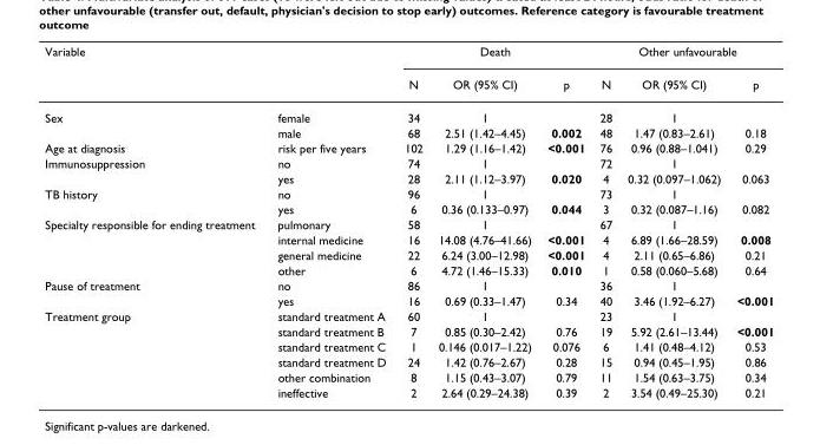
<table><thead><tr><td colspan="2">Variable</td><td colspan="3">Death</td><td colspan="3">Other unfavourable</td></tr><tr><td></td><td></td><td>N</td><td>OR (95% CI)</td><td>p</td><td>N</td><td>OR (95% CI)</td><td>p</td></tr></thead><tbody><tr><td rowspan="2">Sex</td><td>female</td><td>34</td><td>1</td><td></td><td>28</td><td>1</td><td></td></tr><tr><td>male</td><td>68</td><td>2.51 (1.42–4.45)</td><td>0.002</td><td>48</td><td>1.47 (0.83–2.61)</td><td>0.18</td></tr><tr><td>Age at diagnosis</td><td>risk per five years</td><td>102</td><td>1.29 (1.16–1.42)</td><td>&lt;0.001</td><td>76</td><td>0.96 (0.88–1.041)</td><td>0.29</td></tr><tr><td rowspan="2">Immunosuppression</td><td>no</td><td>74</td><td>1</td><td></td><td>72</td><td>1</td><td></td></tr><tr><td>yes</td><td>28</td><td>2.11 (1.12–3.97)</td><td>0.020</td><td>4</td><td>0.32 (0.097–1.062)</td><td>0.063</td></tr><tr><td rowspan="2">TB history</td><td>no</td><td>96</td><td>1</td><td></td><td>73</td><td>1</td><td></td></tr><tr><td>yes</td><td>6</td><td>0.36 (0.133–0.97)</td><td>0.044</td><td>3</td><td>0.32 (0.087–1.16)</td><td>0.082</td></tr><tr><td rowspan="4">Specialty responsible for ending treatment</td><td>pulmonary</td><td>58</td><td>1</td><td></td><td>67</td><td>1</td><td></td></tr><tr><td>internal medicine</td><td>16</td><td>14.08 (4.76–41.66)</td><td>&lt;0.001</td><td>4</td><td>6.89 (1.66–28.59)</td><td>0.008</td></tr><tr><td>general medicine</td><td>22</td><td>6.24 (3.00–12.98)</td><td>&lt;0.001</td><td>4</td><td>2.11 (0.65–6.86)</td><td>0.21</td></tr><tr><td>other</td><td>6</td><td>4.72 (1.46–15.33)</td><td>0.010</td><td>1</td><td>0.58 (0.060–5.68)</td><td>0.64</td></tr><tr><td rowspan="2">Pause of treatment</td><td>no</td><td>86</td><td>1</td><td></td><td>36</td><td>1</td><td></td></tr><tr><td>yes</td><td>16</td><td>0.69 (0.33–1.47)</td><td>0.34</td><td>40</td><td>3.46 (1.92–6.27)</td><td>&lt;0.001</td></tr><tr><td rowspan="6">Treatment group</td><td>standard treatment A</td><td>60</td><td>1</td><td></td><td>23</td><td>1</td><td></td></tr><tr><td>standard treatment B</td><td>7</td><td>0.85 (0.30–2.42)</td><td>0.76</td><td>19</td><td>5.92 (2.61–13.44)</td><td>&lt;0.001</td></tr><tr><td>standard treatment C</td><td>1</td><td>0.146 (0.017–1.22)</td><td>0.076</td><td>6</td><td>1.41 (0.48–4.12)</td><td>0.53</td></tr><tr><td>standard treatment D</td><td>24</td><td>1.42 (0.76–2.67)</td><td>0.28</td><td>15</td><td>0.94 (0.45–1.95)</td><td>0.86</td></tr><tr><td>other combination</td><td>8</td><td>1.15 (0.43–3.07)</td><td>0.79</td><td>11</td><td>1.54 (0.63–3.75)</td><td>0.34</td></tr><tr><td>ineffective</td><td>2</td><td>2.64 (0.29–24.38)</td><td>0.39</td><td>2</td><td>3.54 (0.49–25.30)</td><td>0.21</td></tr></tbody></table>